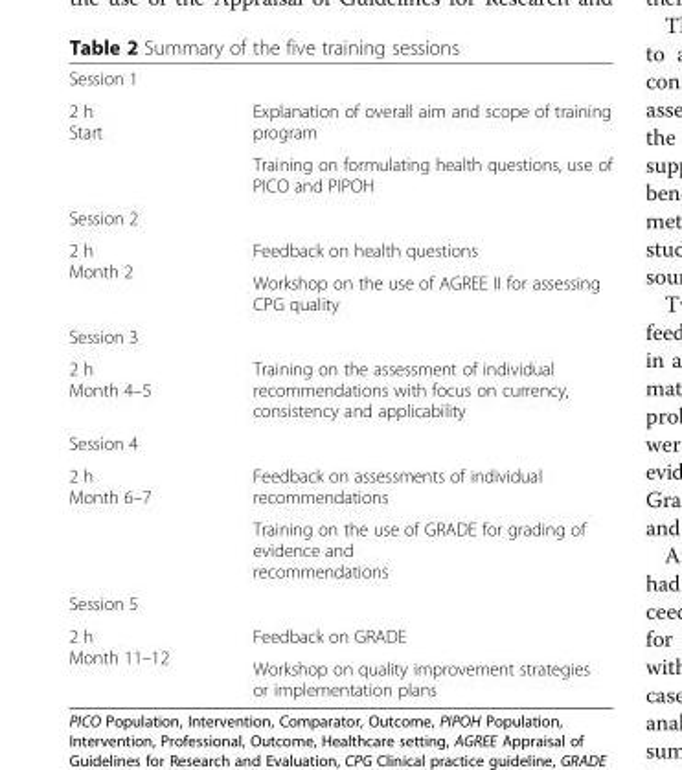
<table><tbody><tr><td colspan="2">Session 1</td></tr><tr><td rowspan="2">2 h Start</td><td>Explanation of overall aim and scope of training program</td></tr><tr><td>Training on formulating health questions, use of PICO and PIPOH</td></tr><tr><td colspan="2">Session 2</td></tr><tr><td rowspan="2">2 h Month 2</td><td>Feedback on health questions</td></tr><tr><td>Workshop on the use of AGREE II for assessing CPG quality</td></tr><tr><td colspan="2">Session 3</td></tr><tr><td>2 h Month 4–5</td><td>Training on the assessment of individual recommendations with focus on currency, consistency and applicability</td></tr><tr><td colspan="2">Session 4</td></tr><tr><td rowspan="2">2 h Month 6–7</td><td>Feedback on assessments of individual recommendations</td></tr><tr><td>Training on the use of GRADE for grading of evidence and recommendations</td></tr><tr><td colspan="2">Session 5</td></tr><tr><td rowspan="2">2 h Month 11–12</td><td>Feedback on GRADE</td></tr><tr><td>Workshop on quality improvement strategies or implementation plans</td></tr></tbody></table>